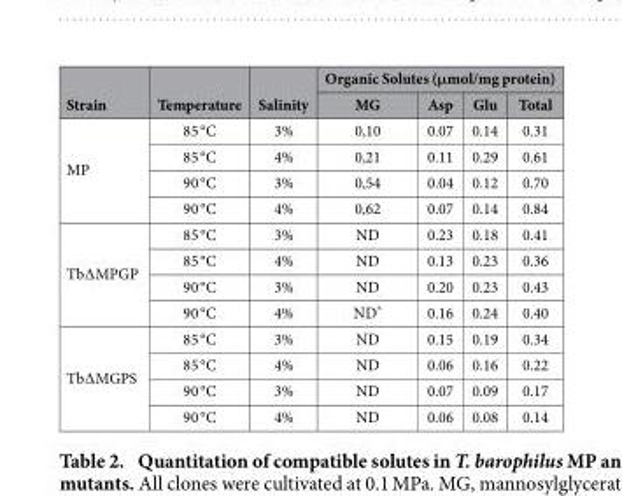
<table><thead><tr><td rowspan="2">Strain</td><td rowspan="2">Temperature</td><td rowspan="2">Salinity</td><td colspan="4">Organic Solutes (μmol/mg protein)</td></tr><tr><td>MG</td><td>Asp</td><td>Glu</td><td>Total</td></tr></thead><tbody><tr><td rowspan="4">MP</td><td>85 °C</td><td>3%</td><td>0,10</td><td>0.07</td><td>0.14</td><td>0.31</td></tr><tr><td>85 °C</td><td>4%</td><td>0,21</td><td>0.11</td><td>0.29</td><td>0.61</td></tr><tr><td>90 °C</td><td>3%</td><td>0,54</td><td>0.04</td><td>0.12</td><td>0.70</td></tr><tr><td>90 °C</td><td>4%</td><td>0,62</td><td>0.07</td><td>0.14</td><td>0.84</td></tr><tr><td rowspan="4">Tb∆ MPGP</td><td>85 °C</td><td>3%</td><td>ND</td><td>0.23</td><td>0.18</td><td>0.41</td></tr><tr><td>85 °C</td><td>4%</td><td>ND</td><td>0.13</td><td>0.23</td><td>0.36</td></tr><tr><td>90 °C</td><td>3%</td><td>ND</td><td>0.20</td><td>0.23</td><td>0.43</td></tr><tr><td>90 °C</td><td>4%</td><td>ND*</td><td>0.16</td><td>0.24</td><td>0.40</td></tr><tr><td rowspan="4">Tb∆ MGPS</td><td>85 °C</td><td>3%</td><td>ND</td><td>0.15</td><td>0.19</td><td>0.34</td></tr><tr><td>85 °C</td><td>4%</td><td>ND</td><td>0.06</td><td>0.16</td><td>0.22</td></tr><tr><td>90 °C</td><td>3%</td><td>ND</td><td>0.07</td><td>0.09</td><td>0.17</td></tr><tr><td>90 °C</td><td>4%</td><td>ND</td><td>0.06</td><td>0.08</td><td>0.14</td></tr></tbody></table>